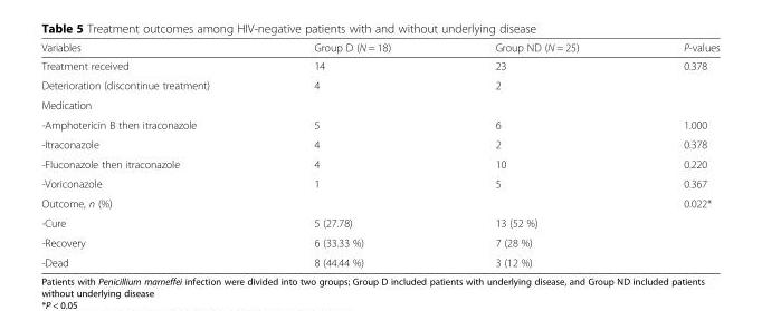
<table><thead><tr><td>Variables</td><td>Group D (N = 18)</td><td>Group ND (N = 25)</td><td>P-values</td></tr></thead><tbody><tr><td>Treatment received</td><td>14</td><td>23</td><td>0.378</td></tr><tr><td>Deterioration (discontinue treatment)</td><td>4</td><td>2</td><td></td></tr><tr><td colspan="4">Medication</td></tr><tr><td>-Amphotericin B then itraconazole</td><td>5</td><td>6</td><td>1.000</td></tr><tr><td>-Itraconazole</td><td>4</td><td>2</td><td>0.378</td></tr><tr><td>-Fluconazole then itraconazole</td><td>4</td><td>10</td><td>0.220</td></tr><tr><td>-Voriconazole</td><td>1</td><td>5</td><td>0.367</td></tr><tr><td colspan="3">Outcome, n (%)</td><td>0.022*</td></tr><tr><td>-Cure</td><td>5 (27.78)</td><td>13 (52 %)</td><td></td></tr><tr><td>-Recovery</td><td>6 (33.33 %)</td><td>7 (28 %)</td><td></td></tr><tr><td>-Dead</td><td>8 (44.44 %)</td><td>3 (12 %)</td><td></td></tr></tbody></table>